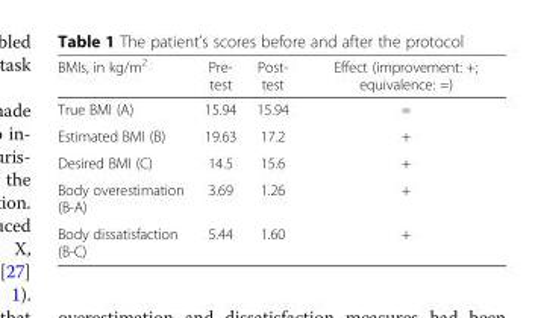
<table><thead><tr><td>BMIs, in kg/m<sup>2</sup></td><td>Pre- test</td><td>Post- test</td><td>Effect (improvement: +; equivalence: =)</td></tr></thead><tbody><tr><td>True BMI (A)</td><td>15.94</td><td>15.94</td><td>=</td></tr><tr><td>Estimated BMI (B)</td><td>19.63</td><td>17.2</td><td>+</td></tr><tr><td>Desired BMI (C)</td><td>14.5</td><td>15.6</td><td>+</td></tr><tr><td>Body overestimation (B-A)</td><td>3.69</td><td>1.26</td><td>+</td></tr><tr><td>Body dissatisfaction (B-C)</td><td>5.44</td><td>1.60</td><td>+</td></tr></tbody></table>